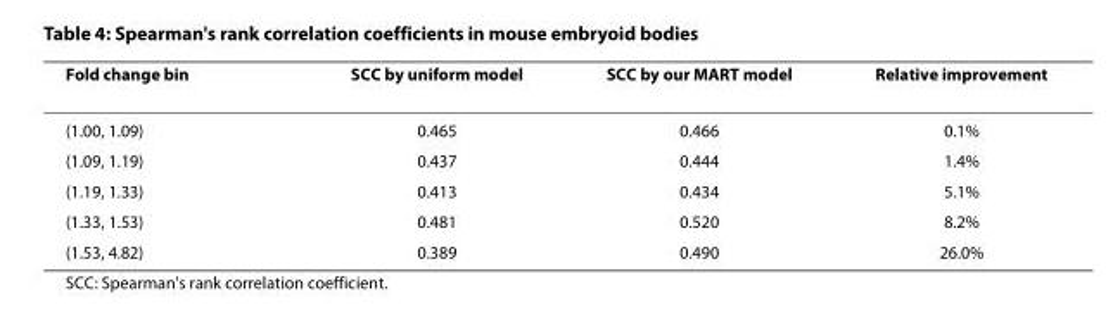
<table><thead><tr><td>Fold change bin</td><td>SCC by uniform model</td><td>SCC by our MART model</td><td>Relative improvement</td></tr></thead><tbody><tr><td>(1.00, 1.09)</td><td>0.465</td><td>0.466</td><td>0.1%</td></tr><tr><td>(1.09, 1.19)</td><td>0.437</td><td>0.444</td><td>1.4%</td></tr><tr><td>(1.19, 1.33)</td><td>0.413</td><td>0.434</td><td>5.1%</td></tr><tr><td>(1.33, 1.53)</td><td>0.481</td><td>0.520</td><td>8.2%</td></tr><tr><td>(1.53, 4.82)</td><td>0.389</td><td>0.490</td><td>26.0%</td></tr></tbody></table>